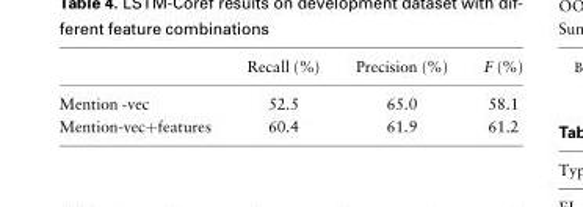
<table><thead><tr><td></td><td>Recall (%)</td><td>Precision (%)</td><td>F (%)</td></tr></thead><tbody><tr><td>Mention -vec</td><td>52.5</td><td>65.0</td><td>58.1</td></tr><tr><td>Mention-vec+features</td><td>60.4</td><td>61.9</td><td>61.2</td></tr></tbody></table>